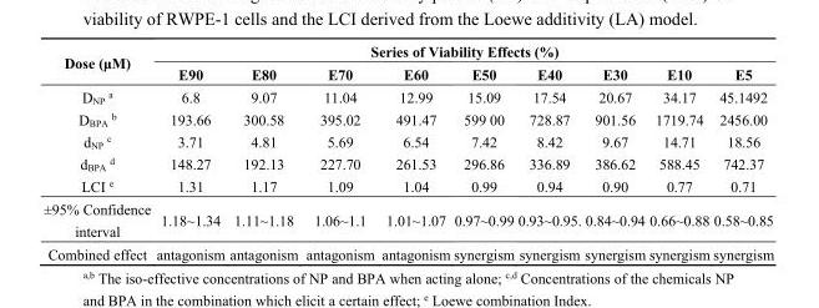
<table><thead><tr><td rowspan="2">Dose (μM)</td><td colspan="9">Series of Viability Effects (%)</td></tr><tr><td>E90</td><td>E80</td><td>E70</td><td>E60</td><td>E50</td><td>E40</td><td>E30</td><td>E10</td><td>E5</td></tr></thead><tbody><tr><td>D<sub>NP</sub> <sup>a</sup></td><td>6.8</td><td>9.07</td><td>11.04</td><td>12.99</td><td>15.09</td><td>17.54</td><td>20.67</td><td>34.17</td><td>45.1492</td></tr><tr><td>D<sub>BPA</sub> <sup>b</sup></td><td>193.66</td><td>300.58</td><td>395.02</td><td>491.47</td><td>599 00</td><td>728.87</td><td>901.56</td><td>1719.74</td><td>2456.00</td></tr><tr><td>d<sub>NP</sub> <sup>c</sup></td><td>3.71</td><td>4.81</td><td>5.69</td><td>6.54</td><td>7.42</td><td>8.42</td><td>9.67</td><td>14.71</td><td>18.56</td></tr><tr><td>d<sub>BPA</sub> <sup>d</sup></td><td>148.27</td><td>192.13</td><td>227.70</td><td>261.53</td><td>296.86</td><td>336.89</td><td>386.62</td><td>588.45</td><td>742.37</td></tr><tr><td>LCI <sup>e</sup></td><td>1.31</td><td>1.17</td><td>1.09</td><td>1.04</td><td>0.99</td><td>0.94</td><td>0.90</td><td>0.77</td><td>0.71</td></tr><tr><td>±95% Confidence interval</td><td>1.18~1.34</td><td>1.11~1.18</td><td>1.06~1.1</td><td>1.01~1.07</td><td>0.97~0.99</td><td>0.93~0.95.</td><td>0.84~0.94</td><td>0.66~0.88</td><td>0.58~0.85</td></tr><tr><td>Combined effect</td><td>antagonism</td><td>antagonism</td><td>antagonism</td><td>antagonism</td><td>synergism</td><td>synergism</td><td>synergism</td><td>synergism</td><td>synergism</td></tr></tbody></table>